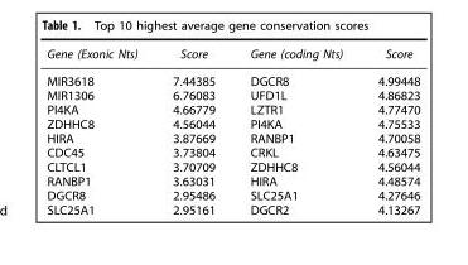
<table><thead><tr><td>Gene (Exonic Nts)</td><td>Score</td><td>Gene (coding Nts)</td><td>Score</td></tr></thead><tbody><tr><td>MIR3618</td><td>7.44385</td><td>DGCR8</td><td>4.99448</td></tr><tr><td>MIR1306</td><td>6.76083</td><td>UFD1L</td><td>4.86823</td></tr><tr><td>PI4KA</td><td>4.66779</td><td>LZTR1</td><td>4.77470</td></tr><tr><td>ZDHHC8</td><td>4.56044</td><td>PI4KA</td><td>4.75533</td></tr><tr><td>HIRA</td><td>3.87669</td><td>RANBP1</td><td>4.70058</td></tr><tr><td>CDC45</td><td>3.73804</td><td>CRKL</td><td>4.63475</td></tr><tr><td>CLTCL1</td><td>3.70709</td><td>ZDHHC8</td><td>4.56044</td></tr><tr><td>RANBP1</td><td>3.63031</td><td>HIRA</td><td>4.48574</td></tr><tr><td>DGCR8</td><td>2.95486</td><td>SLC25A1</td><td>4.27646</td></tr><tr><td>SLC25A1</td><td>2.95161</td><td>DGCR2</td><td>4.13267</td></tr></tbody></table>